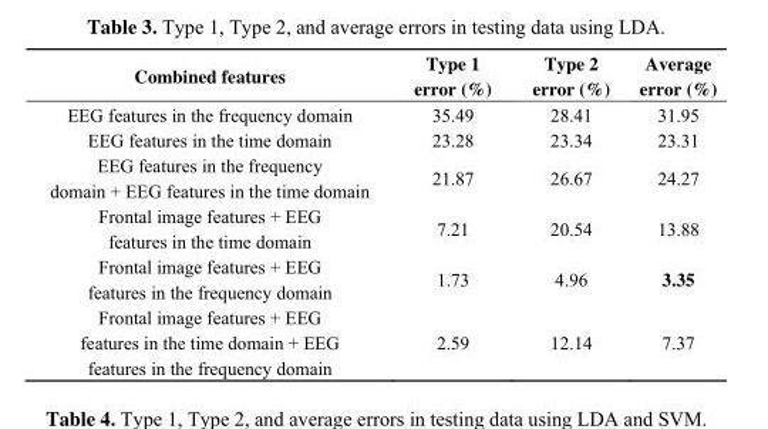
<table><thead><tr><td>Combined features</td><td>Type 1 error (%)</td><td>Type 2 error (%)</td><td>Average error (%)</td></tr></thead><tbody><tr><td>EEG features in the frequency domain</td><td>35.49</td><td>28.41</td><td>31.95</td></tr><tr><td>EEG features in the time domain</td><td>23.28</td><td>23.34</td><td>23.31</td></tr><tr><td>EEG features in the frequency domain + EEG features in the time domain</td><td>21.87</td><td>26.67</td><td>24.27</td></tr><tr><td>Frontal image features + EEG features in the time domain</td><td>7.21</td><td>20.54</td><td>13.88</td></tr><tr><td>Frontal image features + EEG features in the frequency domain</td><td>1.73</td><td>4.96</td><td>3.35</td></tr><tr><td>Frontal image features + EEG features in the time domain + EEG features in the frequency domain</td><td>2.59</td><td>12.14</td><td>7.37</td></tr></tbody></table>